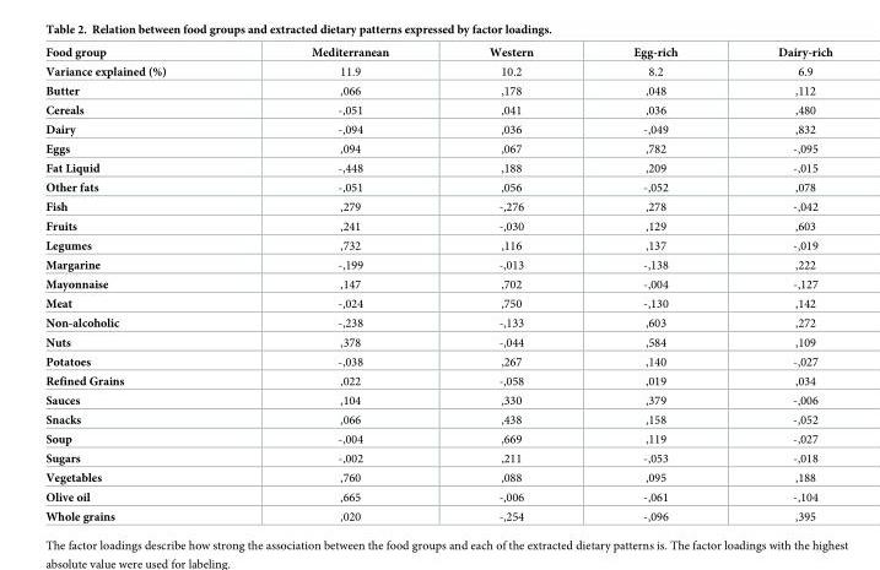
<table><thead><tr><td>Food group</td><td>Mediterranean</td><td>Western</td><td>Egg-rich</td><td>Dairy-rich</td></tr></thead><tbody><tr><td>Variance explained (%)</td><td>11.9</td><td>10.2</td><td>8.2</td><td>6.9</td></tr><tr><td>Butter</td><td>,066</td><td>,178</td><td>,048</td><td>,112</td></tr><tr><td>Cereals</td><td>-,051</td><td>,041</td><td>,036</td><td>,480</td></tr><tr><td>Dairy</td><td>-,094</td><td>,036</td><td>-,049</td><td>,832</td></tr><tr><td>Eggs</td><td>,094</td><td>,067</td><td>,782</td><td>-,095</td></tr><tr><td>Fat Liquid</td><td>-,448</td><td>,188</td><td>,209</td><td>-,015</td></tr><tr><td>Other fats</td><td>-,051</td><td>,056</td><td>-,052</td><td>,078</td></tr><tr><td>Fish</td><td>,279</td><td>-,276</td><td>,278</td><td>-,042</td></tr><tr><td>Fruits</td><td>,241</td><td>-,030</td><td>,129</td><td>,603</td></tr><tr><td>Legumes</td><td>,732</td><td>,116</td><td>,137</td><td>-,019</td></tr><tr><td>Margarine</td><td>-,199</td><td>-,013</td><td>-,138</td><td>,222</td></tr><tr><td>Mayonnaise</td><td>,147</td><td>,702</td><td>-,004</td><td>-,127</td></tr><tr><td>Meat</td><td>-,024</td><td>,750</td><td>-,130</td><td>,142</td></tr><tr><td>Non-alcoholic</td><td>-,238</td><td>-,133</td><td>,603</td><td>,272</td></tr><tr><td>Nuts</td><td>,378</td><td>-,044</td><td>,584</td><td>,109</td></tr><tr><td>Potatoes</td><td>-,038</td><td>,267</td><td>,140</td><td>-,027</td></tr><tr><td>Refined Grains</td><td>,022</td><td>-,058</td><td>,019</td><td>,034</td></tr><tr><td>Sauces</td><td>,104</td><td>,330</td><td>,379</td><td>-,006</td></tr><tr><td>Snacks</td><td>,066</td><td>,438</td><td>,158</td><td>-,052</td></tr><tr><td>Soup</td><td>-,004</td><td>,669</td><td>,119</td><td>-,027</td></tr><tr><td>Sugars</td><td>-,002</td><td>,211</td><td>-,053</td><td>-,018</td></tr><tr><td>Vegetables</td><td>,760</td><td>,088</td><td>,095</td><td>,188</td></tr><tr><td>Olive oil</td><td>,665</td><td>-,006</td><td>-,061</td><td>-,104</td></tr><tr><td>Whole grains</td><td>,020</td><td>-,254</td><td>-,096</td><td>,395</td></tr></tbody></table>